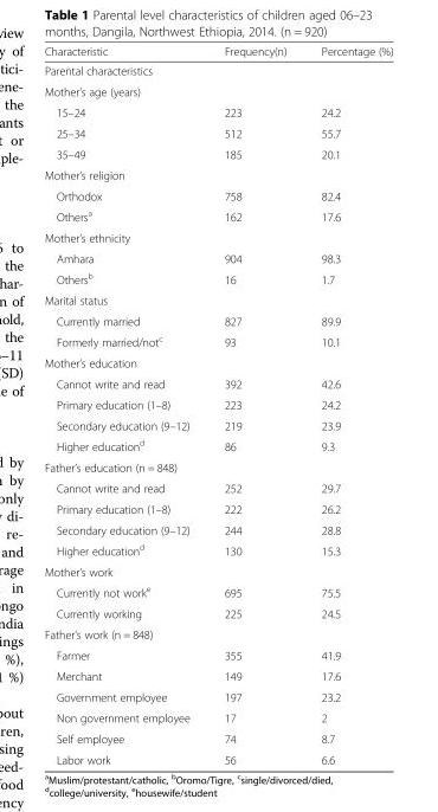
<table><thead><tr><td>Characteristic</td><td>Frequency(n)</td><td>Percentage (%)</td></tr></thead><tbody><tr><td colspan="3">Parental characteristics</td></tr><tr><td colspan="3">Mother’s age (years)</td></tr><tr><td>15–24</td><td>223</td><td>24.2</td></tr><tr><td>25–34</td><td>512</td><td>55.7</td></tr><tr><td>35–49</td><td>185</td><td>20.1</td></tr><tr><td colspan="3">Mother’s religion</td></tr><tr><td>Orthodox</td><td>758</td><td>82.4</td></tr><tr><td>Others<sup>a</sup></td><td>162</td><td>17.6</td></tr><tr><td colspan="3">Mother’s ethnicity</td></tr><tr><td>Amhara</td><td>904</td><td>98.3</td></tr><tr><td>Others<sup>b</sup></td><td>16</td><td>1.7</td></tr><tr><td colspan="3">Marital status</td></tr><tr><td>Currently married</td><td>827</td><td>89.9</td></tr><tr><td>Formerly married/not<sup>c</sup></td><td>93</td><td>10.1</td></tr><tr><td colspan="3">Mother’s education</td></tr><tr><td>Cannot write and read</td><td>392</td><td>42.6</td></tr><tr><td>Primary education (1–8)</td><td>223</td><td>24.2</td></tr><tr><td>Secondary education (9–12)</td><td>219</td><td>23.9</td></tr><tr><td>Higher education<sup>d</sup></td><td>86</td><td>9.3</td></tr><tr><td colspan="3">Father’s education (n = 848)</td></tr><tr><td>Cannot write and read</td><td>252</td><td>29.7</td></tr><tr><td>Primary education (1–8)</td><td>222</td><td>26.2</td></tr><tr><td>Secondary education (9–12)</td><td>244</td><td>28.8</td></tr><tr><td>Higher education<sup>d</sup></td><td>130</td><td>15.3</td></tr><tr><td colspan="3">Mother’s work</td></tr><tr><td>Currently not work<sup>e</sup></td><td>695</td><td>75.5</td></tr><tr><td>Currently working</td><td>225</td><td>24.5</td></tr><tr><td colspan="3">Father’s work (n = 848)</td></tr><tr><td>Farmer</td><td>355</td><td>41.9</td></tr><tr><td>Merchant</td><td>149</td><td>17.6</td></tr><tr><td>Government employee</td><td>197</td><td>23.2</td></tr><tr><td>Non government employee</td><td>17</td><td>2</td></tr><tr><td>Self employee</td><td>74</td><td>8.7</td></tr><tr><td>Labor work</td><td>56</td><td>6.6</td></tr></tbody></table>